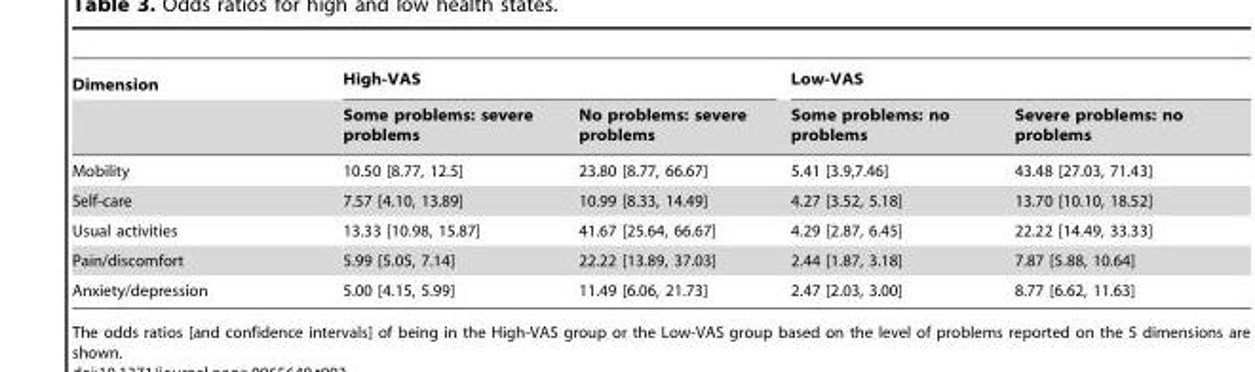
<table><thead><tr><td rowspan="2">Dimension</td><td colspan="2">High-VAS</td><td colspan="2">Low-VAS</td></tr><tr><td>Some problems: severe problems</td><td>No problems: severe problems</td><td>Some problems: no problems</td><td>Severe problems: no problems</td></tr></thead><tbody><tr><td>Mobility</td><td>10.50 [8.77, 12.5]</td><td>23.80 [8.77, 66.67]</td><td>5.41 [3.9,7.46]</td><td>43.48 [27.03, 71.43]</td></tr><tr><td>Self-care</td><td>7.57 [4.10, 13.89]</td><td>10.99 [8.33, 14.49]</td><td>4.27 [3.52, 5.18]</td><td>13.70 [10.10, 18.52]</td></tr><tr><td>Usual activities</td><td>13.33 [10.98, 15.87]</td><td>41.67 [25.64, 66.67]</td><td>4.29 [2.87, 6.45]</td><td>22.22 [14.49, 33.33]</td></tr><tr><td>Pain/discomfort</td><td>5.99 [5.05, 7.14]</td><td>22.22 [13.89, 37.03]</td><td>2.44 [1.87, 3.18]</td><td>7.87 [5.88, 10.64]</td></tr><tr><td>Anxiety/depression</td><td>5.00 [4.15, 5.99]</td><td>11.49 [6.06, 21.73]</td><td>2.47 [2.03, 3.00]</td><td>8.77 [6.62, 11.63]</td></tr></tbody></table>